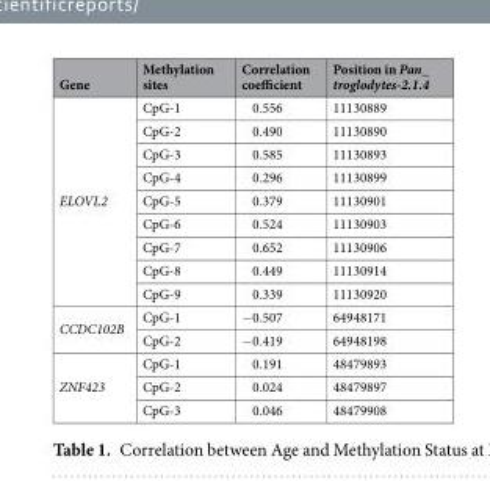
<table><thead><tr><td>Gene</td><td>Methylation sites</td><td>Correlation coefficient</td><td>Position in Pan_ troglodytes-2.1.4</td></tr></thead><tbody><tr><td rowspan="9">ELOVL2</td><td>CpG-1</td><td>0.556</td><td>11130889</td></tr><tr><td>CpG-2</td><td>0.490</td><td>11130890</td></tr><tr><td>CpG-3</td><td>0.585</td><td>11130893</td></tr><tr><td>CpG-4</td><td>0.296</td><td>11130899</td></tr><tr><td>CpG-5</td><td>0.379</td><td>11130901</td></tr><tr><td>CpG-6</td><td>0.524</td><td>11130903</td></tr><tr><td>CpG-7</td><td>0.652</td><td>11130906</td></tr><tr><td>CpG-8</td><td>0.449</td><td>11130914</td></tr><tr><td>CpG-9</td><td>0.339</td><td>11130920</td></tr><tr><td rowspan="2">CCDC102B</td><td>CpG-1</td><td>−0.507</td><td>64948171</td></tr><tr><td>CpG-2</td><td>−0.419</td><td>64948198</td></tr><tr><td rowspan="3">ZNF423</td><td>CpG-1</td><td>0.191</td><td>48479893</td></tr><tr><td>CpG-2</td><td>0.024</td><td>48479897</td></tr><tr><td>CpG-3</td><td>0.046</td><td>48479908</td></tr></tbody></table>